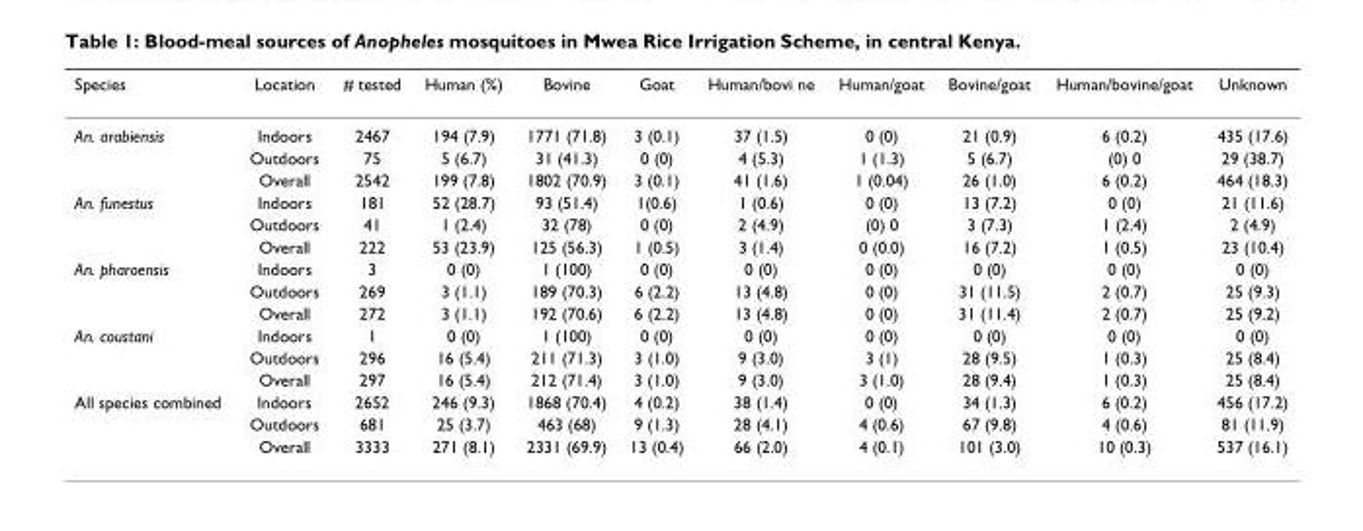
<table><thead><tr><td>Species</td><td>Location</td><td># tested</td><td>Human (%)</td><td>Bovine</td><td>Goat</td><td>Human/bovi ne</td><td>Human/goat</td><td>Bovine/goat</td><td>Human/bovine/goat</td><td>Unknown</td></tr></thead><tbody><tr><td rowspan="3">An. arabiensis</td><td>Indoors</td><td>2467</td><td>194 (7.9)</td><td>1771 (71.8)</td><td>3 (0.1)</td><td>37 (1.5)</td><td>0 (0)</td><td>21 (0.9)</td><td>6 (0.2)</td><td>435 (17.6)</td></tr><tr><td>Outdoors</td><td>75</td><td>5 (6.7)</td><td>31 (41.3)</td><td>0 (0)</td><td>4 (5.3)</td><td>1 (1.3)</td><td>5 (6.7)</td><td>(0) 0</td><td>29 (38.7)</td></tr><tr><td>Overall</td><td>2542</td><td>199 (7.8)</td><td>1802 (70.9)</td><td>3 (0.1)</td><td>41 (1.6)</td><td>1 (0.04)</td><td>26 (1.0)</td><td>6 (0.2)</td><td>464 (18.3)</td></tr><tr><td rowspan="3">An. funestus</td><td>Indoors</td><td>181</td><td>52 (28.7)</td><td>93 (51.4)</td><td>1(0.6)</td><td>1 (0.6)</td><td>0 (0)</td><td>13 (7.2)</td><td>0 (0)</td><td>21 (11.6)</td></tr><tr><td>Outdoors</td><td>41</td><td>1 (2.4)</td><td>32 (78)</td><td>0 (0)</td><td>2 (4.9)</td><td>(0) 0</td><td>3 (7.3)</td><td>1 (2.4)</td><td>2 (4.9)</td></tr><tr><td>Overall</td><td>222</td><td>53 (23.9)</td><td>125 (56.3)</td><td>1 (0.5)</td><td>3 (1.4)</td><td>0 (0.0)</td><td>16 (7.2)</td><td>1 (0.5)</td><td>23 (10.4)</td></tr><tr><td rowspan="3">An. pharoensis</td><td>Indoors</td><td>3</td><td>0 (0)</td><td>1 (100)</td><td>0 (0)</td><td>0 (0)</td><td>0 (0)</td><td>0 (0)</td><td>0 (0)</td><td>0 (0)</td></tr><tr><td>Outdoors</td><td>269</td><td>3 (1.1)</td><td>189 (70.3)</td><td>6 (2.2)</td><td>13 (4.8)</td><td>0 (0)</td><td>31 (11.5)</td><td>2 (0.7)</td><td>25 (9.3)</td></tr><tr><td>Overall</td><td>272</td><td>3 (1.1)</td><td>192 (70.6)</td><td>6 (2.2)</td><td>13 (4.8)</td><td>0 (0)</td><td>31 (11.4)</td><td>2 (0.7)</td><td>25 (9.2)</td></tr><tr><td rowspan="3">An. coustani</td><td>Indoors</td><td>1</td><td>0 (0)</td><td>1 (100)</td><td>0 (0)</td><td>0 (0)</td><td>0 (0)</td><td>0 (0)</td><td>0 (0)</td><td>0 (0)</td></tr><tr><td>Outdoors</td><td>296</td><td>16 (5.4)</td><td>211 (71.3)</td><td>3 (1.0)</td><td>9 (3.0)</td><td>3 (1)</td><td>28 (9.5)</td><td>1 (0.3)</td><td>25 (8.4)</td></tr><tr><td>Overall</td><td>297</td><td>16 (5.4)</td><td>212 (71.4)</td><td>3 (1.0)</td><td>9 (3.0)</td><td>3 (1.0)</td><td>28 (9.4)</td><td>1 (0.3)</td><td>25 (8.4)</td></tr><tr><td rowspan="3">All species combined</td><td>Indoors</td><td>2652</td><td>246 (9.3)</td><td>1868 (70.4)</td><td>4 (0.2)</td><td>38 (1.4)</td><td>0 (0)</td><td>34 (1.3)</td><td>6 (0.2)</td><td>456 (17.2)</td></tr><tr><td>Outdoors</td><td>681</td><td>25 (3.7)</td><td>463 (68)</td><td>9 (1.3)</td><td>28 (4.1)</td><td>4 (0.6)</td><td>67 (9.8)</td><td>4 (0.6)</td><td>81 (11.9)</td></tr><tr><td>Overall</td><td>3333</td><td>271 (8.1)</td><td>2331 (69.9)</td><td>13 (0.4)</td><td>66 (2.0)</td><td>4 (0.1)</td><td>101 (3.0)</td><td>10 (0.3)</td><td>537 (16.1)</td></tr></tbody></table>